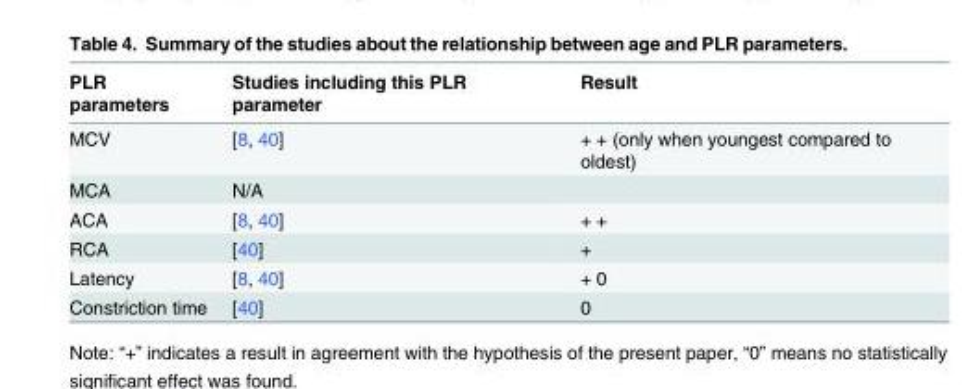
<table><thead><tr><td>PLR parameters</td><td>Studies including this PLR parameter</td><td>Result</td></tr></thead><tbody><tr><td>MCV</td><td>[8, 40]</td><td>+ + (only when youngest compared to oldest)</td></tr><tr><td>MCA</td><td>N/A</td><td></td></tr><tr><td>ACA</td><td>[8, 40]</td><td>+ +</td></tr><tr><td>RCA</td><td>[40]</td><td>+</td></tr><tr><td>Latency</td><td>[8, 40]</td><td>+ 0</td></tr><tr><td>Constriction time</td><td>[40]</td><td>0</td></tr></tbody></table>